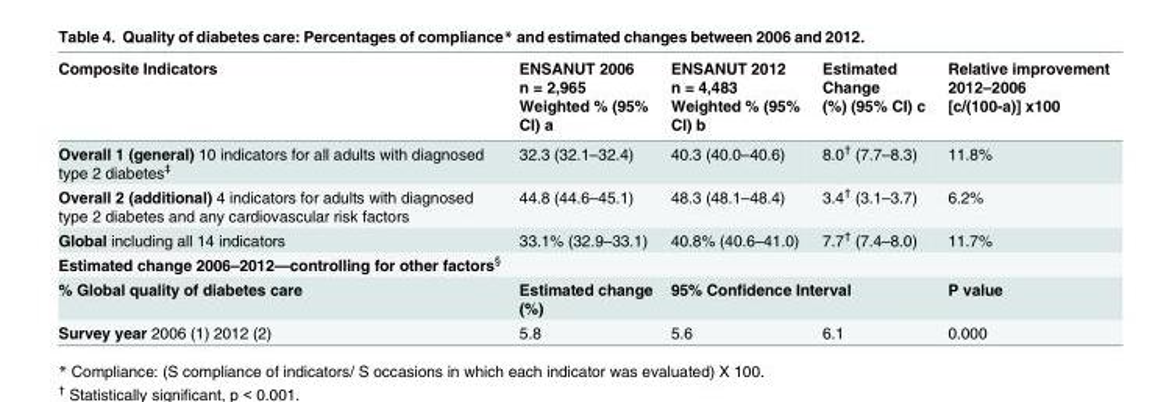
<table><thead><tr><td rowspan="2">Composite Indicators</td><td rowspan="2">ENSANUT 2006 n = 2,965 Weighted % (95% CI) a</td><td rowspan="2">ENSANUT 2012 n = 4,483 Weighted % (95% CI) b</td><td rowspan="2">Estimated Change (%) (95% CI) c</td><td rowspan="2">Relative improvement 2012–2006 [c/(100-a)] x100</td></tr><tr></tr></thead><tbody><tr><td>Overall 1 (general) 10 indicators for all adults with diagnosed type 2 diabetes<sup>‡</sup></td><td>32.3 (32.1–32.4)</td><td>40.3 (40.0–40.6)</td><td>8.0<sup>†</sup> (7.7–8.3)</td><td>11.8%</td></tr><tr><td>Overall 2 (additional) 4 indicators for adults with diagnosed type 2 diabetes and any cardiovascular risk factors</td><td>44.8 (44.6–45.1)</td><td>48.3 (48.1–48.4)</td><td>3.4<sup>†</sup> (3.1–3.7)</td><td>6.2%</td></tr><tr><td>Global including all 14 indicators</td><td>33.1% (32.9–33.1)</td><td>40.8% (40.6–41.0)</td><td>7.7<sup>†</sup> (7.4–8.0)</td><td>11.7%</td></tr><tr><td colspan="5">Estimated change 2006–2012—controlling for other factors<sup>§</sup></td></tr><tr><td>% Global quality of diabetes care</td><td>Estimated change (%)</td><td colspan="2">95% Confidence Interval</td><td>P value</td></tr><tr><td>Survey year 2006 (1) 2012 (2)</td><td>5.8</td><td>5.6</td><td>6.1</td><td>0.000</td></tr></tbody></table>